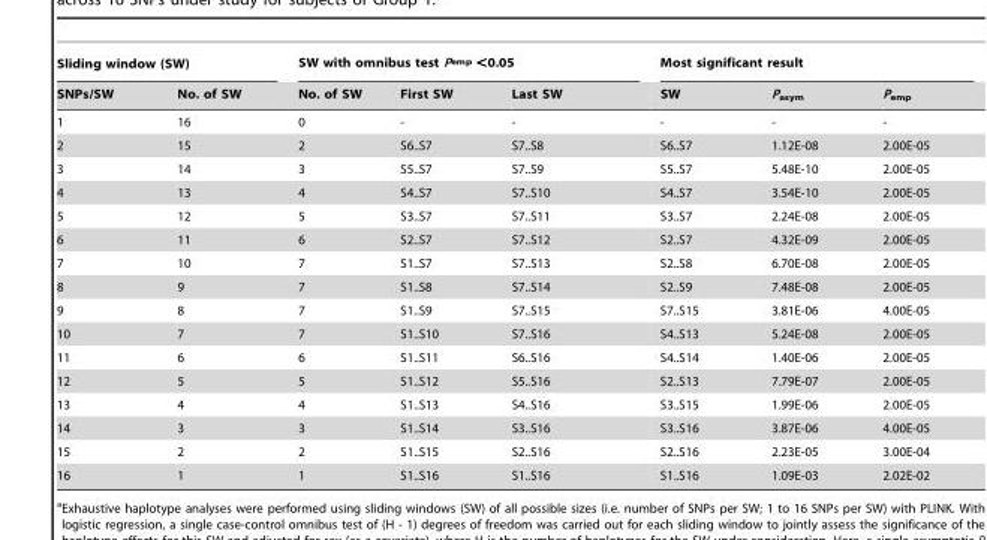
<table><thead><tr><td colspan="2">Sliding window (SW)</td><td colspan="3">SW with omnibus test P<sub>emp</sub> &lt;0.05</td><td colspan="3">Most significant result</td></tr><tr><td>SNPs/SW</td><td>No. of SW</td><td>No. of SW</td><td>First SW</td><td>Last SW</td><td>SW</td><td>P<sub>asym</sub></td><td>P<sub>emp</sub></td></tr></thead><tbody><tr><td>1</td><td>16</td><td>0</td><td>-</td><td>-</td><td>-</td><td>-</td><td>-</td></tr><tr><td>2</td><td>15</td><td>2</td><td>S6..S7</td><td>S7..S8</td><td>S6..S7</td><td>1.12E-08</td><td>2.00E-05</td></tr><tr><td>3</td><td>14</td><td>3</td><td>S5..S7</td><td>S7..S9</td><td>S5..S7</td><td>5.48E-10</td><td>2.00E-05</td></tr><tr><td>4</td><td>13</td><td>4</td><td>S4..S7</td><td>S7..S10</td><td>S4..S7</td><td>3.54E-10</td><td>2.00E-05</td></tr><tr><td>5</td><td>12</td><td>5</td><td>S3..S7</td><td>S7..S11</td><td>S3..S7</td><td>2.24E-08</td><td>2.00E-05</td></tr><tr><td>6</td><td>11</td><td>6</td><td>S2..S7</td><td>S7..S12</td><td>S2..S7</td><td>4.32E-09</td><td>2.00E-05</td></tr><tr><td>7</td><td>10</td><td>7</td><td>S1..S7</td><td>S7..S13</td><td>S2..S8</td><td>6.70E-08</td><td>2.00E-05</td></tr><tr><td>8</td><td>9</td><td>7</td><td>S1..S8</td><td>S7..S14</td><td>S2..S9</td><td>7.48E-08</td><td>2.00E-05</td></tr><tr><td>9</td><td>8</td><td>7</td><td>S1..S9</td><td>S7..S15</td><td>S7..S15</td><td>3.81E-06</td><td>4.00E-05</td></tr><tr><td>10</td><td>7</td><td>7</td><td>S1..S10</td><td>S7..S16</td><td>S4..S13</td><td>5.24E-08</td><td>2.00E-05</td></tr><tr><td>11</td><td>6</td><td>6</td><td>S1..S11</td><td>S6..S16</td><td>S4..S14</td><td>1.40E-06</td><td>2.00E-05</td></tr><tr><td>12</td><td>5</td><td>5</td><td>S1..S12</td><td>S5..S16</td><td>S2..S13</td><td>7.79E-07</td><td>2.00E-05</td></tr><tr><td>13</td><td>4</td><td>4</td><td>S1..S13</td><td>S4..S16</td><td>S3..S15</td><td>1.99E-06</td><td>2.00E-05</td></tr><tr><td>14</td><td>3</td><td>3</td><td>S1..S14</td><td>S3..S16</td><td>S3..S16</td><td>3.87E-06</td><td>4.00E-05</td></tr><tr><td>15</td><td>2</td><td>2</td><td>S1..S15</td><td>S2..S16</td><td>S2..S16</td><td>2.23E-05</td><td>3.00E-04</td></tr><tr><td>16</td><td>1</td><td>1</td><td>S1..S16</td><td>S1..S16</td><td>S1..S16</td><td>1.09E-03</td><td>2.02E-02</td></tr></tbody></table>